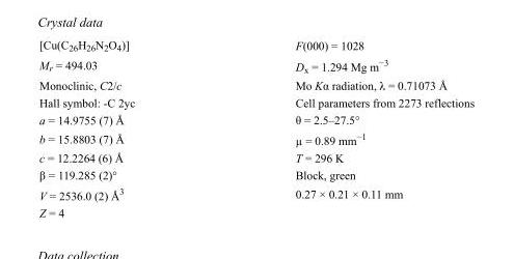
<table><tbody><tr><td>[Cu(C<sub>26</sub>H<sub>26</sub>N<sub>2</sub>O<sub>4</sub>)]</td><td>F(000) = 1028</td></tr><tr><td>M<sub>r</sub> = 494.03</td><td>D<sub>x</sub> = 1.294 Mg m<sup>−3</sup></td></tr><tr><td>Monoclinic, C2/c</td><td>Mo Kα radiation, λ = 0.71073 Å</td></tr><tr><td>Hall symbol: -C 2yc</td><td>Cell parameters from 2273 reflections</td></tr><tr><td>a = 14.9755 (7) Å</td><td>θ = 2.5–27.5°</td></tr><tr><td>b = 15.8803 (7) Å</td><td>µ = 0.89 mm<sup>−1</sup></td></tr><tr><td>c = 12.2264 (6) Å</td><td>T = 296 K</td></tr><tr><td>β = 119.285 (2)°</td><td>Block, green</td></tr><tr><td>V = 2536.0 (2) Å<sup>3</sup></td><td>0.27 × 0.21 × 0.11 mm</td></tr><tr><td>Z = 4</td><td></td></tr></tbody></table>